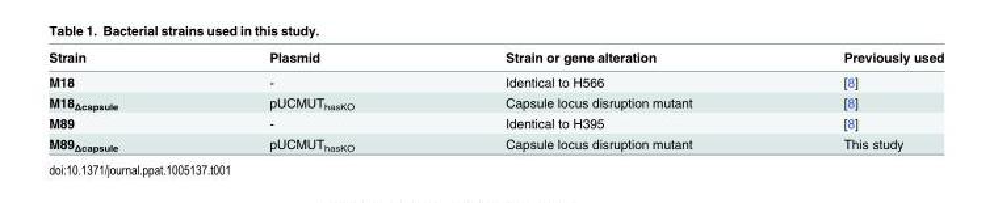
<table><thead><tr><td>Strain</td><td>Plasmid</td><td>Strain or gene alteration</td><td>Previously used</td></tr></thead><tbody><tr><td>M18</td><td>-</td><td>Identical to H566</td><td>[8]</td></tr><tr><td>M18<sub>Δcapsule</sub></td><td>pUCMUT<sub>hasKO</sub></td><td>Capsule locus disruption mutant</td><td>[8]</td></tr><tr><td>M89</td><td>-</td><td>Identical to H395</td><td>[8]</td></tr><tr><td>M89<sub>Δcapsule</sub></td><td>pUCMUT<sub>hasKO</sub></td><td>Capsule locus disruption mutant</td><td>This study</td></tr></tbody></table>